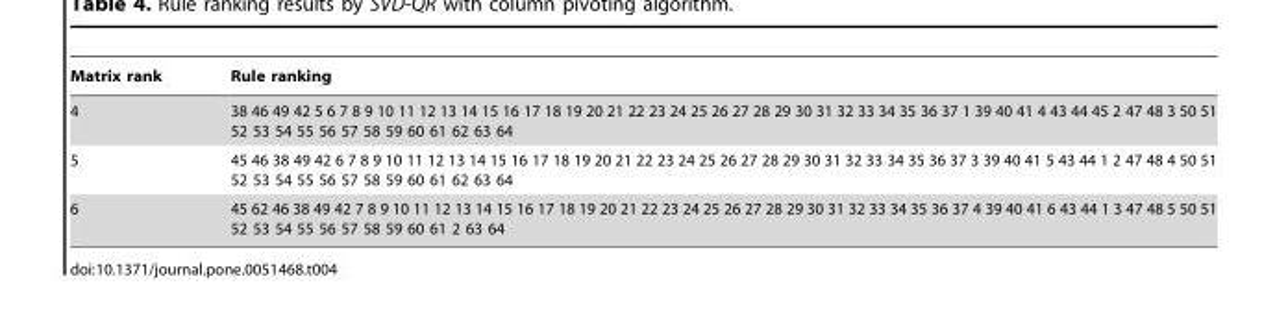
<table><thead><tr><td>Matrix rank</td><td>Rule ranking</td></tr></thead><tbody><tr><td>4</td><td>38 46 49 42 5 6 7 8 9 10 11 12 13 14 15 16 17 18 19 20 21 22 23 24 25 26 27 28 29 30 31 32 33 34 35 36 37 1 39 40 41 4 43 44 45 2 47 48 3 50 51 52 53 54 55 56 57 58 59 60 61 62 63 64</td></tr><tr><td>5</td><td>45 46 38 49 42 6 7 8 9 10 11 12 13 14 15 16 17 18 19 20 21 22 23 24 25 26 27 28 29 30 31 32 33 34 35 36 37 3 39 40 41 5 43 44 1 2 47 48 4 50 51 52 53 54 55 56 57 58 59 60 61 62 63 64</td></tr><tr><td>6</td><td>45 62 46 38 49 42 7 8 9 10 11 12 13 14 15 16 17 18 19 20 21 22 23 24 25 26 27 28 29 30 31 32 33 34 35 36 37 4 39 40 41 6 43 44 1 3 47 48 5 50 51 52 53 54 55 56 57 58 59 60 61 2 63 64</td></tr></tbody></table>